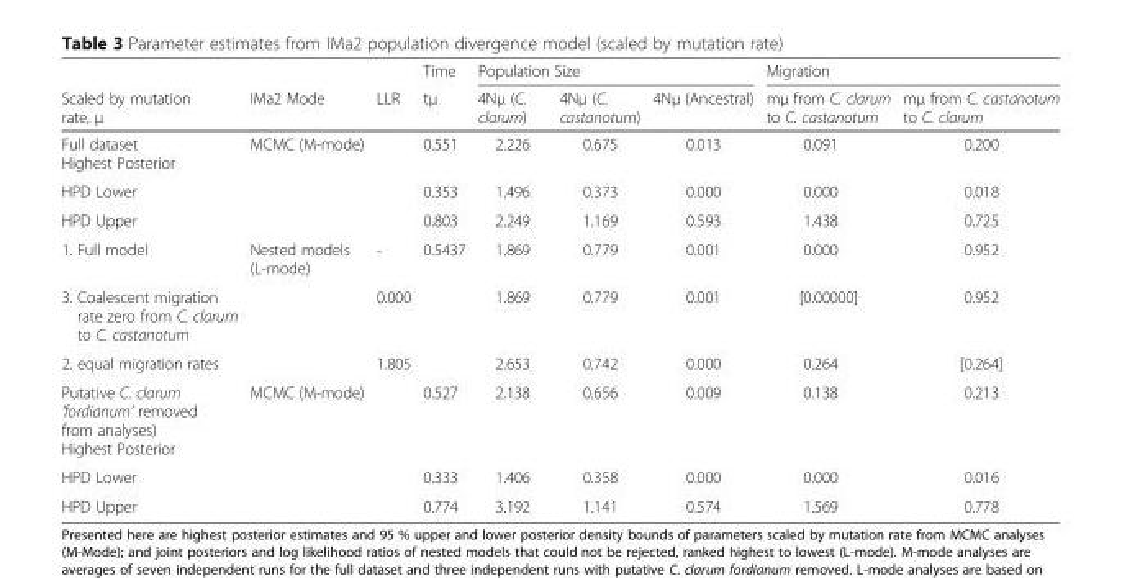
<table><thead><tr><td rowspan="2">Scaled by mutation rate, μ</td><td rowspan="2">IMa2 Mode</td><td rowspan="2">LLR</td><td rowspan="2">Time tμ</td><td colspan="3">Population Size</td><td colspan="2">Migration</td></tr><tr><td>4Nμ (C. clarum)</td><td>4Nμ (C. castanotum)</td><td>4Nμ (Ancestral)</td><td>mμ from C. clarum to C. castanotum</td><td>mμ from C. castanotum to C. clarum</td></tr></thead><tbody><tr><td>Full dataset Highest Posterior</td><td>MCMC (M-mode)</td><td></td><td>0.551</td><td>2.226</td><td>0.675</td><td>0.013</td><td>0.091</td><td>0.200</td></tr><tr><td>HPD Lower</td><td></td><td></td><td>0.353</td><td>1.496</td><td>0.373</td><td>0.000</td><td>0.000</td><td>0.018</td></tr><tr><td>HPD Upper</td><td></td><td></td><td>0.803</td><td>2.249</td><td>1.169</td><td>0.593</td><td>1.438</td><td>0.725</td></tr><tr><td>1. Full model</td><td>Nested models (L-mode)</td><td>-</td><td>0.5437</td><td>1.869</td><td>0.779</td><td>0.001</td><td>0.000</td><td>0.952</td></tr><tr><td>3. Coalescent migration rate zero from C. clarum to C. castanotum</td><td></td><td>0.000</td><td></td><td>1.869</td><td>0.779</td><td>0.001</td><td>[0.00000]</td><td>0.952</td></tr><tr><td>2. equal migration rates</td><td></td><td>1.805</td><td></td><td>2.653</td><td>0.742</td><td>0.000</td><td>0.264</td><td>[0.264]</td></tr><tr><td>Putative C. clarum ‘fordianum’ removed from analyses) Highest Posterior</td><td>MCMC (M-mode)</td><td></td><td>0.527</td><td>2.138</td><td>0.656</td><td>0.009</td><td>0.138</td><td>0.213</td></tr><tr><td>HPD Lower</td><td></td><td></td><td>0.333</td><td>1.406</td><td>0.358</td><td>0.000</td><td>0.000</td><td>0.016</td></tr><tr><td>HPD Upper</td><td></td><td></td><td>0.774</td><td>3.192</td><td>1.141</td><td>0.574</td><td>1.569</td><td>0.778</td></tr></tbody></table>